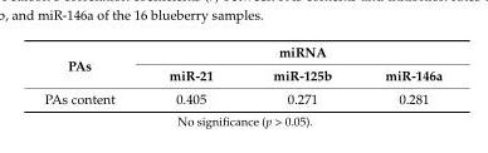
<table><thead><tr><td rowspan="2">PAs</td><td colspan="3">miRNA</td></tr><tr><td>miR-21</td><td>miR-125b</td><td>miR-146a</td></tr></thead><tbody><tr><td>PAs content</td><td>0.405</td><td>0.271</td><td>0.281</td></tr></tbody></table>